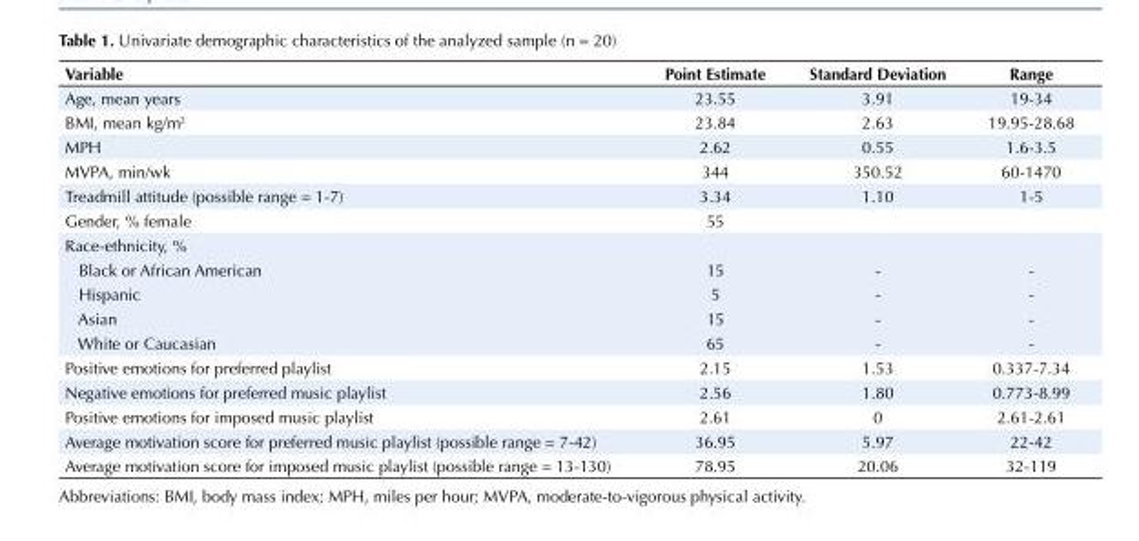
<table><tbody><tr><td>Variable</td><td>Point Estimate</td><td>Standard Deviation</td><td>Range</td></tr><tr><td>Age, mean years</td><td>23.55</td><td>3.91</td><td>19-34</td></tr><tr><td>BMI, mean kg/m<sup>2</sup></td><td>23.84</td><td>2.63</td><td>19.95-28.68</td></tr><tr><td>MPH</td><td>2.62</td><td>0.55</td><td>1.6-3.5</td></tr><tr><td>MVPA, min/wk</td><td>344</td><td>350.52</td><td>60-1470</td></tr><tr><td>Treadmill attitude (possible range = 1-7)</td><td>3.34</td><td>1.10</td><td>1-5</td></tr><tr><td>Gender, % female</td><td>55</td><td></td><td></td></tr><tr><td colspan="4">Race-ethnicity, %</td></tr><tr><td>Black or African American</td><td>15</td><td>-</td><td>-</td></tr><tr><td>Hispanic</td><td>5</td><td>-</td><td>-</td></tr><tr><td>Asian</td><td>15</td><td>-</td><td>-</td></tr><tr><td>White or Caucasian</td><td>65</td><td>-</td><td>-</td></tr><tr><td>Positive emotions for preferred playlist</td><td>2.15</td><td>1.53</td><td>0.337-7.34</td></tr><tr><td>Negative emotions for preferred music playlist</td><td>2.56</td><td>1.80</td><td>0.773-8.99</td></tr><tr><td>Positive emotions for imposed music playlist</td><td>2.61</td><td>0</td><td>2.61-2.61</td></tr><tr><td>Average motivation score for preferred music playlist (possible range = 7-42)</td><td>36.95</td><td>5.97</td><td>22-42</td></tr><tr><td>Average motivation score for imposed music playlist (possible range = 13-130)</td><td>78.95</td><td>20.06</td><td>32-119</td></tr></tbody></table>